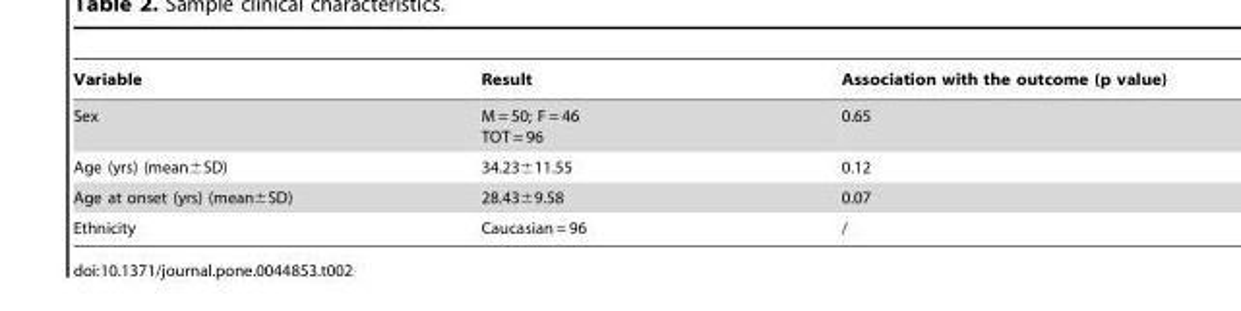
<table><thead><tr><td>Variable</td><td>Result</td><td>Association with the outcome (p value)</td></tr></thead><tbody><tr><td>Sex</td><td>M = 50; F = 46 TOT = 96</td><td>0.65</td></tr><tr><td>Age (yrs) (mean±SD)</td><td>34.23±11.55</td><td>0.12</td></tr><tr><td>Age at onset (yrs) (mean±SD)</td><td>28.43±9.58</td><td>0.07</td></tr><tr><td>Ethnicity</td><td>Caucasian = 96</td><td>/</td></tr></tbody></table>